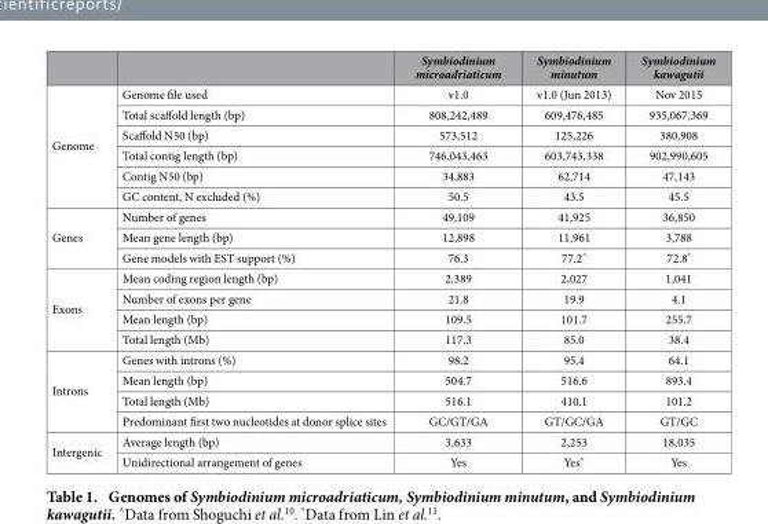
<table><thead><tr><td></td><td></td><td>Symbiodinium microadriaticum</td><td>Symbiodinium minutum</td><td>Symbiodinium kawagutii</td></tr></thead><tbody><tr><td rowspan="6">Genome</td><td>Genome file used</td><td>v1.0</td><td>v1.0 (Jun 2013)</td><td>Nov 2015</td></tr><tr><td>Total scaffold length (bp)</td><td>808,242,489</td><td>609,476,485</td><td>935,067,369</td></tr><tr><td>Scaffold N50 (bp)</td><td>573,512</td><td>125,226</td><td>380,908</td></tr><tr><td>Total contig length (bp)</td><td>746,043,463</td><td>603,743,338</td><td>902,990,605</td></tr><tr><td>Contig N50 (bp)</td><td>34,883</td><td>62,714</td><td>47,143</td></tr><tr><td>GC content, N excluded (%)</td><td>50.5</td><td>43.5</td><td>45.5</td></tr><tr><td rowspan="3">Genes</td><td>Number of genes</td><td>49,109</td><td>41,925</td><td>36,850</td></tr><tr><td>Mean gene length (bp)</td><td>12,898</td><td>11,961</td><td>3,788</td></tr><tr><td>Gene models with EST support (%)</td><td>76.3</td><td>77.2^</td><td>72.8*</td></tr><tr><td rowspan="4">Exons</td><td>Mean coding region length (bp)</td><td>2,389</td><td>2,027</td><td>1,041</td></tr><tr><td>Number of exons per gene</td><td>21.8</td><td>19.9</td><td>4.1</td></tr><tr><td>Mean length (bp)</td><td>109.5</td><td>101.7</td><td>255.7</td></tr><tr><td>Total length (Mb)</td><td>117.3</td><td>85.0</td><td>38.4</td></tr><tr><td rowspan="4">Introns</td><td>Genes with introns (%)</td><td>98.2</td><td>95.4</td><td>64.1</td></tr><tr><td>Mean length (bp)</td><td>504.7</td><td>516.6</td><td>893.4</td></tr><tr><td>Total length (Mb)</td><td>516.1</td><td>410.1</td><td>101.2</td></tr><tr><td>Predominant first two nucleotides at donor splice sites</td><td>GC/GT/GA</td><td>GT/GC/GA</td><td>GT/GC</td></tr><tr><td rowspan="2">Intergenic</td><td>Average length (bp)</td><td>3,633</td><td>2,253</td><td>18,035</td></tr><tr><td>Unidirectional arrangement of genes</td><td>Yes</td><td>Yes^</td><td>Yes</td></tr></tbody></table>